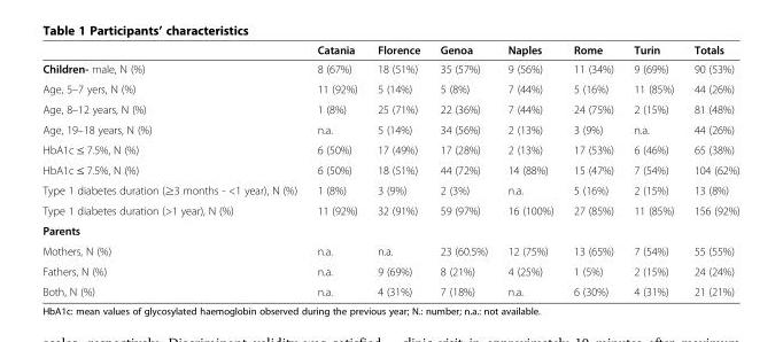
<table><thead><tr><td></td><td>Catania</td><td>Florence</td><td>Genoa</td><td>Naples</td><td>Rome</td><td>Turin</td><td>Totals</td></tr></thead><tbody><tr><td>Children- male, N (%)</td><td>8 (67%)</td><td>18 (51%)</td><td>35 (57%)</td><td>9 (56%)</td><td>11 (34%)</td><td>9 (69%)</td><td>90 (53%)</td></tr><tr><td>Age, 5–7 yers, N (%)</td><td>11 (92%)</td><td>5 (14%)</td><td>5 (8%)</td><td>7 (44%)</td><td>5 (16%)</td><td>11 (85%)</td><td>44 (26%)</td></tr><tr><td>Age, 8–12 years, N (%)</td><td>1 (8%)</td><td>25 (71%)</td><td>22 (36%)</td><td>7 (44%)</td><td>24 (75%)</td><td>2 (15%)</td><td>81 (48%)</td></tr><tr><td>Age, 19–18 years, N (%)</td><td>n.a.</td><td>5 (14%)</td><td>34 (56%)</td><td>2 (13%)</td><td>3 (9%)</td><td>n.a.</td><td>44 (26%)</td></tr><tr><td>HbA1c ≤ 7.5%, N (%)</td><td>6 (50%)</td><td>17 (49%)</td><td>17 (28%)</td><td>2 (13%)</td><td>17 (53%)</td><td>6 (46%)</td><td>65 (38%)</td></tr><tr><td>HbA1c ≤ 7.5%, N (%)</td><td>6 (50%)</td><td>18 (51%)</td><td>44 (72%)</td><td>14 (88%)</td><td>15 (47%)</td><td>7 (54%)</td><td>104 (62%)</td></tr><tr><td>Type 1 diabetes duration (≥3 months - &lt;1 year), N (%)</td><td>1 (8%)</td><td>3 (9%)</td><td>2 (3%)</td><td>n.a.</td><td>5 (16%)</td><td>2 (15%)</td><td>13 (8%)</td></tr><tr><td>Type 1 diabetes duration (&gt;1 year), N (%)</td><td>11 (92%)</td><td>32 (91%)</td><td>59 (97%)</td><td>16 (100%)</td><td>27 (85%)</td><td>11 (85%)</td><td>156 (92%)</td></tr><tr><td colspan="8">Parents</td></tr><tr><td>Mothers, N (%)</td><td>n.a.</td><td>n.a.</td><td>23 (60.5%)</td><td>12 (75%)</td><td>13 (65%)</td><td>7 (54%)</td><td>55 (55%)</td></tr><tr><td>Fathers, N (%)</td><td>n.a.</td><td>9 (69%)</td><td>8 (21%)</td><td>4 (25%)</td><td>1 (5%)</td><td>2 (15%)</td><td>24 (24%)</td></tr><tr><td>Both, N (%)</td><td>n.a.</td><td>4 (31%)</td><td>7 (18%)</td><td>n.a.</td><td>6 (30%)</td><td>4 (31%)</td><td>21 (21%)</td></tr></tbody></table>